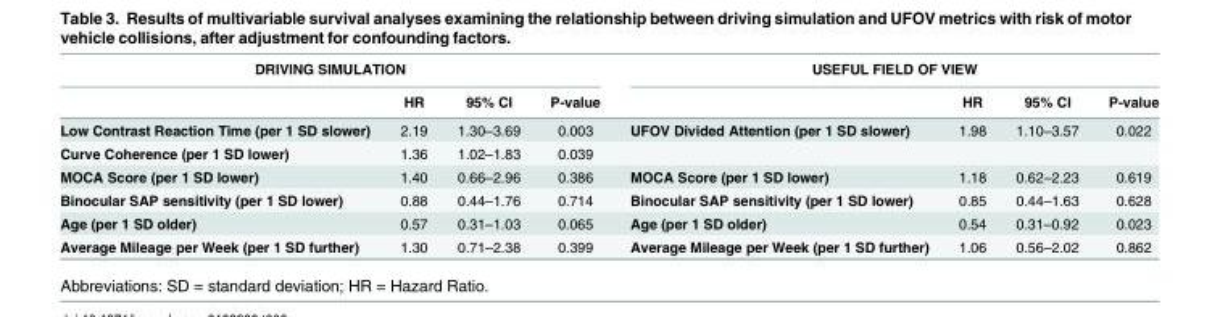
<table><thead><tr><td colspan="4">DRIVING SIMULATION</td><td colspan="4">USEFUL FIELD OF VIEW</td></tr><tr><td></td><td>HR</td><td>95% CI</td><td>P-value</td><td></td><td>HR</td><td>95% CI</td><td>P-value</td></tr></thead><tbody><tr><td>Low Contrast Reaction Time (per 1 SD slower)</td><td>2.19</td><td>1.30–3.69</td><td>0.003</td><td>UFOV Divided Attention (per 1 SD slower)</td><td>1.98</td><td>1.10–3.57</td><td>0.022</td></tr><tr><td>Curve Coherence (per 1 SD lower)</td><td>1.36</td><td>1.02–1.83</td><td>0.039</td><td></td><td></td><td></td><td></td></tr><tr><td>MOCA Score (per 1 SD lower)</td><td>1.40</td><td>0.66–2.96</td><td>0.386</td><td>MOCA Score (per 1 SD lower)</td><td>1.18</td><td>0.62–2.23</td><td>0.619</td></tr><tr><td>Binocular SAP sensitivity (per 1 SD lower)</td><td>0.88</td><td>0.44–1.76</td><td>0.714</td><td>Binocular SAP sensitivity (per 1 SD lower)</td><td>0.85</td><td>0.44–1.63</td><td>0.628</td></tr><tr><td>Age (per 1 SD older)</td><td>0.57</td><td>0.31–1.03</td><td>0.065</td><td>Age (per 1 SD older)</td><td>0.54</td><td>0.31–0.92</td><td>0.023</td></tr><tr><td>Average Mileage per Week (per 1 SD further)</td><td>1.30</td><td>0.71–2.38</td><td>0.399</td><td>Average Mileage per Week (per 1 SD further)</td><td>1.06</td><td>0.56–2.02</td><td>0.862</td></tr></tbody></table>